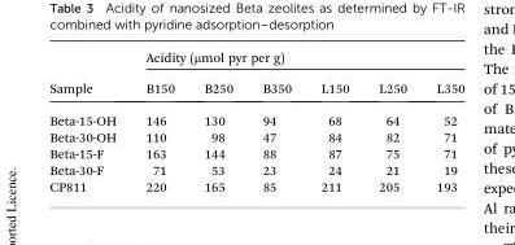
<table><thead><tr><td rowspan="2">Sample</td><td colspan="6">Acidity (μmol pyr per g)</td></tr><tr><td>B150</td><td>B250</td><td>B350</td><td>L150</td><td>L250</td><td>L350</td></tr></thead><tbody><tr><td>Beta-15-OH</td><td>146</td><td>130</td><td>94</td><td>68</td><td>64</td><td>52</td></tr><tr><td>Beta-30-OH</td><td>110</td><td>98</td><td>47</td><td>84</td><td>82</td><td>71</td></tr><tr><td>Beta-15-F</td><td>163</td><td>144</td><td>88</td><td>87</td><td>75</td><td>71</td></tr><tr><td>Beta-30-F</td><td>71</td><td>53</td><td>23</td><td>24</td><td>21</td><td>19</td></tr><tr><td>CP811</td><td>220</td><td>165</td><td>85</td><td>211</td><td>205</td><td>193</td></tr></tbody></table>